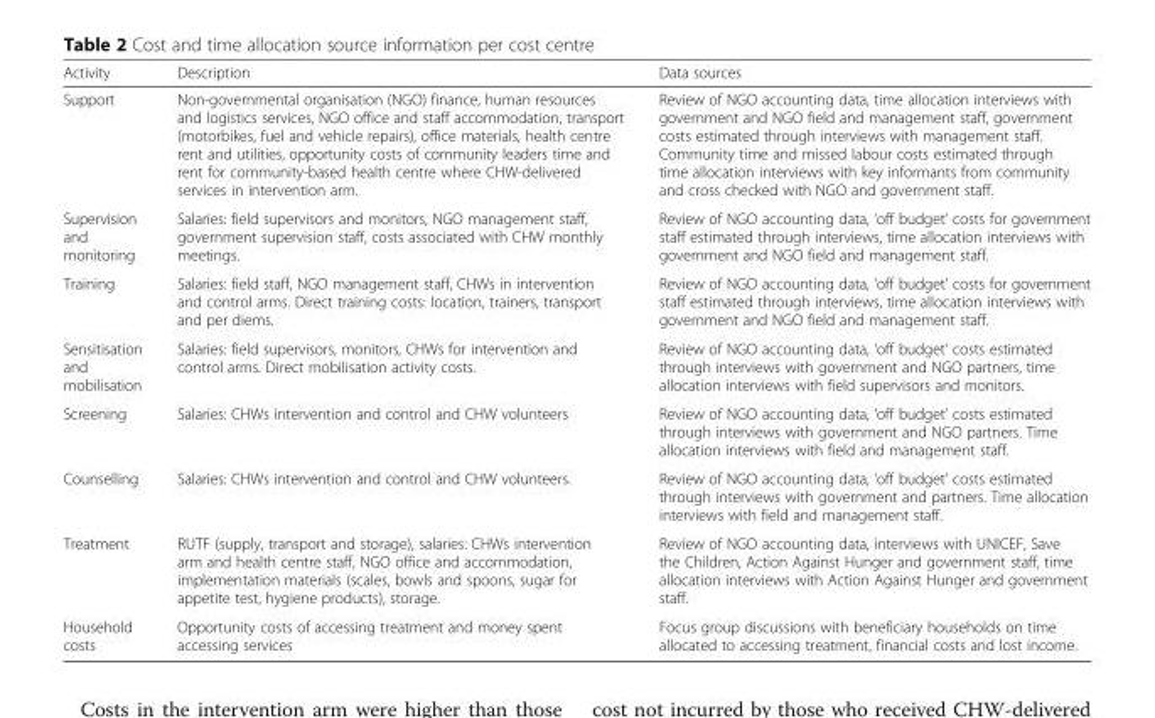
<table><thead><tr><td>Activity</td><td>Description</td><td>Data sources</td></tr></thead><tbody><tr><td>Support</td><td>Non-governmental organisation (NGO) finance, human resources and logistics services, NGO office and staff accommodation, transport (motorbikes, fuel and vehicle repairs), office materials, health centre rent and utilities, opportunity costs of community leaders time and rent for community-based health centre where CHW-delivered services in intervention arm.</td><td>Review of NGO accounting data, time allocation interviews with government and NGO field and management staff, government costs estimated through interviews with management staff. Community time and missed labour costs estimated through time allocation interviews with key informants from community and cross checked with NGO and government staff.</td></tr><tr><td>Supervision and monitoring</td><td>Salaries: field supervisors and monitors, NGO management staff, government supervision staff, costs associated with CHW monthly meetings.</td><td>Review of NGO accounting data, ‘off budget’ costs for government staff estimated through interviews, time allocation interviews with government and NGO field and management staff.</td></tr><tr><td>Training</td><td>Salaries: field staff, NGO management staff, CHWs in intervention and control arms. Direct training costs: location, trainers, transport and per diems.</td><td>Review of NGO accounting data, ‘off budget’ costs for government staff estimated through interviews, time allocation interviews with government and NGO field and management staff.</td></tr><tr><td>Sensitisation and mobilisation</td><td>Salaries: field supervisors, monitors, CHWs for intervention and control arms. Direct mobilisation activity costs.</td><td>Review of NGO accounting data, ‘off budget’ costs estimated through interviews with government and NGO partners, time allocation interviews with field supervisors and monitors.</td></tr><tr><td>Screening</td><td>Salaries: CHWs intervention and control and CHW volunteers</td><td>Review of NGO accounting data, ‘off budget’ costs estimated through interviews with government and NGO partners. Time allocation interviews with field and management staff.</td></tr><tr><td>Counselling</td><td>Salaries: CHWs intervention and control and CHW volunteers.</td><td>Review of NGO accounting data, ‘off budget’ costs estimated through interviews with government and partners. Time allocation interviews with field and management staff.</td></tr><tr><td>Treatment</td><td>RUTF (supply, transport and storage), salaries: CHWs intervention arm and health centre staff, NGO office and accommodation, implementation materials (scales, bowls and spoons, sugar for appetite test, hygiene products), storage.</td><td>Review of NGO accounting data, interviews with UNICEF, Save the Children, Action Against Hunger and government staff, time allocation interviews with Action Against Hunger and government staff.</td></tr><tr><td>Household costs</td><td>Opportunity costs of accessing treatment and money spent accessing services</td><td>Focus group discussions with beneficiary households on time allocated to accessing treatment, financial costs and lost income.</td></tr></tbody></table>